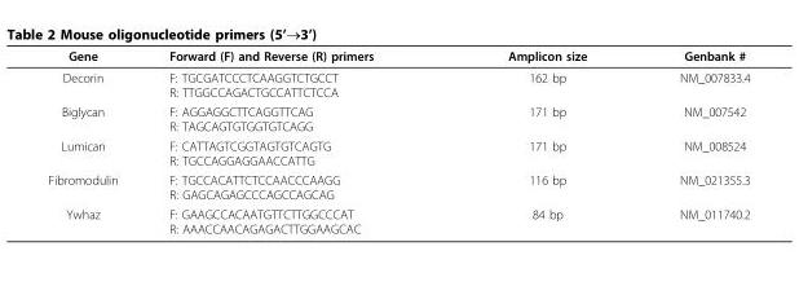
<table><thead><tr><td>Gene</td><td>Forward (F) and Reverse (R) primers</td><td>Amplicon size</td><td>Genbank #</td></tr></thead><tbody><tr><td>Decorin</td><td>F: TGCGATCCCTCAAGGTCTGCCT R: TTGGCCAGACTGCCATTCTCCA</td><td>162 bp</td><td>NM_007833.4</td></tr><tr><td>Biglycan</td><td>F: AGGAGGCTTCAGGTTCAG R: TAGCAGTGTGGTGTCAGG</td><td>171 bp</td><td>NM_007542</td></tr><tr><td>Lumican</td><td>F: CATTAGTCGGTAGTGTCAGTG R: TGCCAGGAGGAACCATTG</td><td>171 bp</td><td>NM_008524</td></tr><tr><td>Fibromodulin</td><td>F: TGCCACATTCTCCAACCCAAGG R: GAGCAGAGCCCAGCCAGCAG</td><td>116 bp</td><td>NM_021355.3</td></tr><tr><td>Ywhaz</td><td>F: GAAGCCACAATGTTCTTGGCCCAT R: AAACCAACAGAGACTTGGAAGCAC</td><td>84 bp</td><td>NM_011740.2</td></tr></tbody></table>